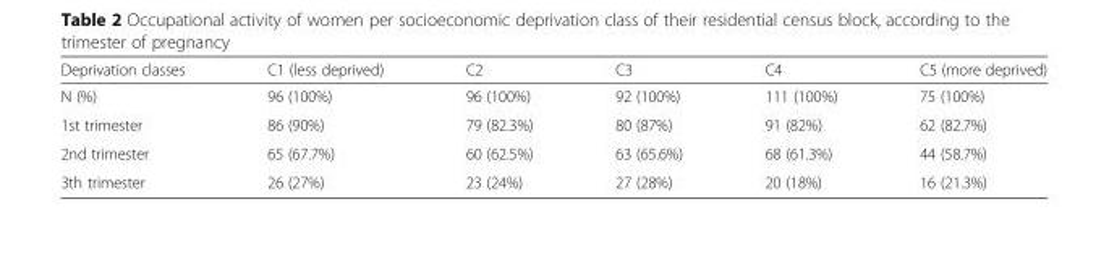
<table><thead><tr><td>Deprivation classes</td><td>C1 (less deprived)</td><td>C2</td><td>C3</td><td>C4</td><td>C5 (more deprived)</td></tr></thead><tbody><tr><td>N (%)</td><td>96 (100%)</td><td>96 (100%)</td><td>92 (100%)</td><td>111 (100%)</td><td>75 (100%)</td></tr><tr><td>1st trimester</td><td>86 (90%)</td><td>79 (82.3%)</td><td>80 (87%)</td><td>91 (82%)</td><td>62 (82.7%)</td></tr><tr><td>2nd trimester</td><td>65 (67.7%)</td><td>60 (62.5%)</td><td>63 (65.6%)</td><td>68 (61.3%)</td><td>44 (58.7%)</td></tr><tr><td>3th trimester</td><td>26 (27%)</td><td>23 (24%)</td><td>27 (28%)</td><td>20 (18%)</td><td>16 (21.3%)</td></tr></tbody></table>